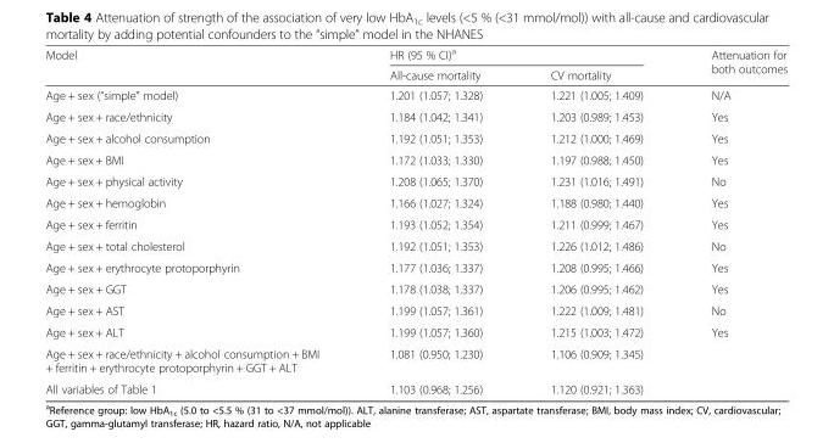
<table><thead><tr><td rowspan="2">Model</td><td colspan="2">HR (95 % CI)<sup>a</sup></td><td rowspan="2">Attenuation for both outcomes</td></tr><tr><td>All-cause mortality</td><td>CV mortality</td></tr></thead><tbody><tr><td>Age + sex (“simple” model)</td><td>1.201 (1.057; 1.328)</td><td>1.221 (1.005; 1.409)</td><td>N/A</td></tr><tr><td>Age + sex + race/ethnicity</td><td>1.184 (1.042; 1.341)</td><td>1.203 (0.989; 1.453)</td><td>Yes</td></tr><tr><td>Age + sex + alcohol consumption</td><td>1.192 (1.051; 1.353)</td><td>1.212 (1.000; 1.469)</td><td>Yes</td></tr><tr><td>Age + sex + BMI</td><td>1.172 (1.033; 1.330)</td><td>1.197 (0.988; 1.450)</td><td>Yes</td></tr><tr><td>Age + sex + physical activity</td><td>1.208 (1.065; 1.370)</td><td>1.231 (1.016; 1.491)</td><td>No</td></tr><tr><td>Age + sex + hemoglobin</td><td>1.166 (1.027; 1.324)</td><td>1.188 (0.980; 1.440)</td><td>Yes</td></tr><tr><td>Age + sex + ferritin</td><td>1.193 (1.052; 1.354)</td><td>1.211 (0.999; 1.467)</td><td>Yes</td></tr><tr><td>Age + sex + total cholesterol</td><td>1.192 (1.051; 1.353)</td><td>1.226 (1.012; 1.486)</td><td>No</td></tr><tr><td>Age + sex + erythrocyte protoporphyrin</td><td>1.177 (1.036; 1.337)</td><td>1.208 (0.995; 1.466)</td><td>Yes</td></tr><tr><td>Age + sex + GGT</td><td>1.178 (1.038; 1.337)</td><td>1.206 (0.995; 1.462)</td><td>Yes</td></tr><tr><td>Age + sex + AST</td><td>1.199 (1.057; 1.361)</td><td>1.222 (1.009; 1.481)</td><td>No</td></tr><tr><td>Age + sex + ALT</td><td>1.199 (1.057; 1.360)</td><td>1.215 (1.003; 1.472)</td><td>Yes</td></tr><tr><td>Age + sex + race/ethnicity + alcohol consumption + BMI + ferritin + erythrocyte protoporphyrin + GGT + ALT</td><td>1.081 (0.950; 1.230)</td><td>1.106 (0.909; 1.345)</td><td></td></tr><tr><td>All variables of Table 1</td><td>1.103 (0.968; 1.256)</td><td>1.120 (0.921; 1.363)</td><td></td></tr></tbody></table>